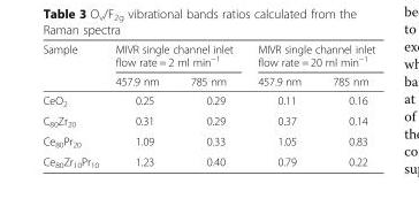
<table><thead><tr><td rowspan="2">Sample</td><td colspan="2">MIVR single channel inlet flow rate = 2 ml min<sup>−1</sup></td><td colspan="2">MIVR single channel inlet flow rate = 20 ml min<sup>−1</sup></td></tr><tr><td>457.9 nm</td><td>785 nm</td><td>457.9 nm</td><td>785 nm</td></tr></thead><tbody><tr><td>CeO<sub>2</sub></td><td>0.25</td><td>0.29</td><td>0.11</td><td>0.16</td></tr><tr><td>C<sub>80</sub>Zr<sub>20</sub></td><td>0.31</td><td>0.29</td><td>0.37</td><td>0.14</td></tr><tr><td>Ce<sub>80</sub>Pr<sub>20</sub></td><td>1.09</td><td>0.33</td><td>1.05</td><td>0.83</td></tr><tr><td>Ce<sub>80</sub>Zr<sub>10</sub>Pr<sub>10</sub></td><td>1.23</td><td>0.40</td><td>0.79</td><td>0.22</td></tr></tbody></table>